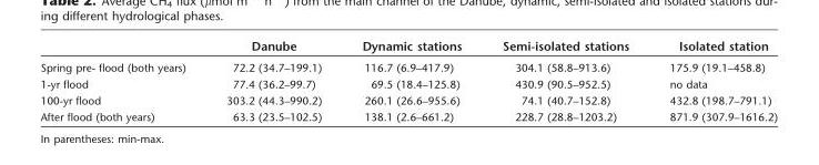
<table><thead><tr><td></td><td>Danube</td><td>Dynamic stations</td><td>Semi-isolated stations</td><td>Isolated station</td></tr></thead><tbody><tr><td>Spring pre- flood (both years)</td><td>72.2 (34.7–199.1)</td><td>116.7 (6.9–417.9)</td><td>304.1 (58.8–913.6)</td><td>175.9 (19.1–458.8)</td></tr><tr><td>1-yr flood</td><td>77.4 (36.2–99.7)</td><td>69.5 (18.4–125.8)</td><td>430.9 (90.5–952.5)</td><td>no data</td></tr><tr><td>100-yr flood</td><td>303.2 (44.3–990.2)</td><td>260.1 (26.6–955.6)</td><td>74.1 (40.7–152.8)</td><td>432.8 (198.7–791.1)</td></tr><tr><td>After flood (both years)</td><td>63.3 (23.5–102.5)</td><td>138.1 (2.6–661.2)</td><td>228.7 (28.8–1203.2)</td><td>871.9 (307.9–1616.2)</td></tr></tbody></table>